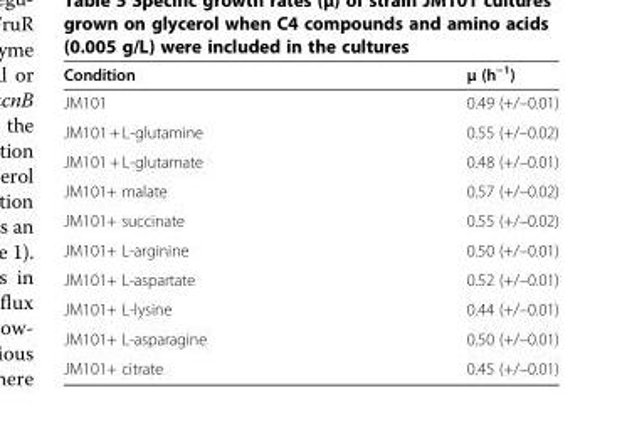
<table><thead><tr><td>Condition</td><td>μ (h<sup>−1</sup>)</td></tr></thead><tbody><tr><td>JM101</td><td>0.49 (+/–0.01)</td></tr><tr><td>JM101 + L-glutamine</td><td>0.55 (+/–0.02)</td></tr><tr><td>JM101 + L-glutamate</td><td>0.48 (+/–0.01)</td></tr><tr><td>JM101+ malate</td><td>0.57 (+/–0.02)</td></tr><tr><td>JM101+ succinate</td><td>0.55 (+/–0.02)</td></tr><tr><td>JM101+ L-arginine</td><td>0.50 (+/–0.01)</td></tr><tr><td>JM101+ L-aspartate</td><td>0.52 (+/–0.01)</td></tr><tr><td>JM101+ L-lysine</td><td>0.44 (+/–0.01)</td></tr><tr><td>JM101+ L-asparagine</td><td>0.50 (+/–0.01)</td></tr><tr><td>JM101+ citrate</td><td>0.45 (+/–0.01)</td></tr></tbody></table>